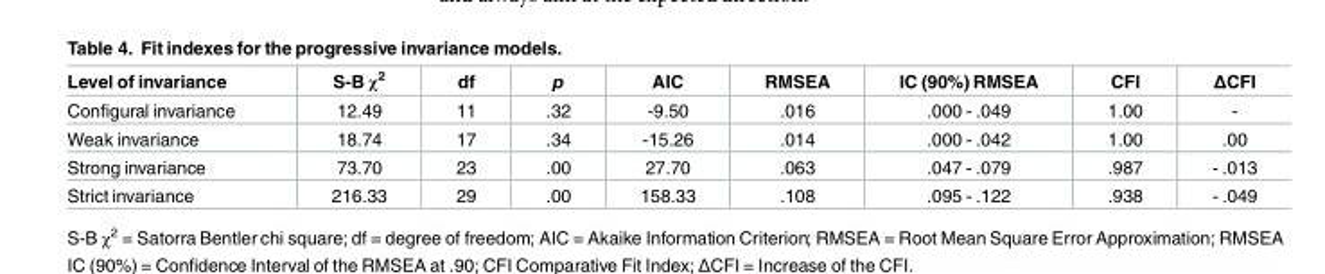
<table><thead><tr><td>Level of invariance</td><td>S-B χ<sup>2</sup></td><td>df</td><td>p</td><td>AIC</td><td>RMSEA</td><td>IC (90%) RMSEA</td><td>CFI</td><td>ΔCFI</td></tr></thead><tbody><tr><td>Configural invariance</td><td>12.49</td><td>11</td><td>.32</td><td>-9.50</td><td>.016</td><td>.000 - .049</td><td>1.00</td><td>-</td></tr><tr><td>Weak invariance</td><td>18.74</td><td>17</td><td>.34</td><td>-15.26</td><td>.014</td><td>.000 - .042</td><td>1.00</td><td>.00</td></tr><tr><td>Strong invariance</td><td>73.70</td><td>23</td><td>.00</td><td>27.70</td><td>.063</td><td>.047 - .079</td><td>.987</td><td>- .013</td></tr><tr><td>Strict invariance</td><td>216.33</td><td>29</td><td>.00</td><td>158.33</td><td>.108</td><td>.095 - .122</td><td>.938</td><td>- .049</td></tr></tbody></table>